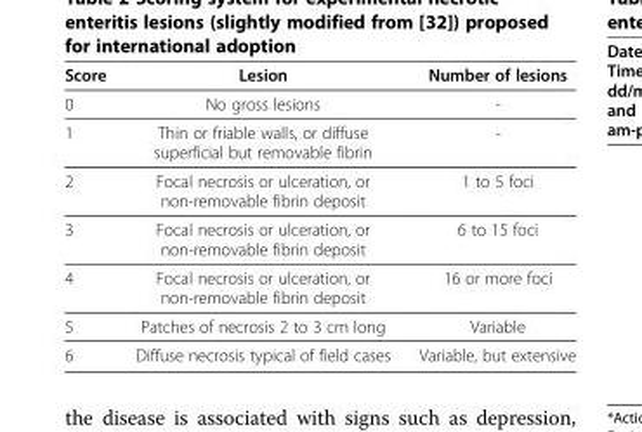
<table><thead><tr><td>Score</td><td>Lesion</td><td>Number of lesions</td></tr></thead><tbody><tr><td>0</td><td>No gross lesions</td><td>-</td></tr><tr><td>1</td><td>Thin or friable walls, or diffuse superficial but removable fibrin</td><td>-</td></tr><tr><td>2</td><td>Focal necrosis or ulceration, or non-removable fibrin deposit</td><td>1 to 5 foci</td></tr><tr><td>3</td><td>Focal necrosis or ulceration, or non-removable fibrin deposit</td><td>6 to 15 foci</td></tr><tr><td>4</td><td>Focal necrosis or ulceration, or non-removable fibrin deposit</td><td>16 or more foci</td></tr><tr><td>5</td><td>Patches of necrosis 2 to 3 cm long</td><td>Variable</td></tr><tr><td>6</td><td>Diffuse necrosis typical of field cases</td><td>Variable, but extensive</td></tr></tbody></table>